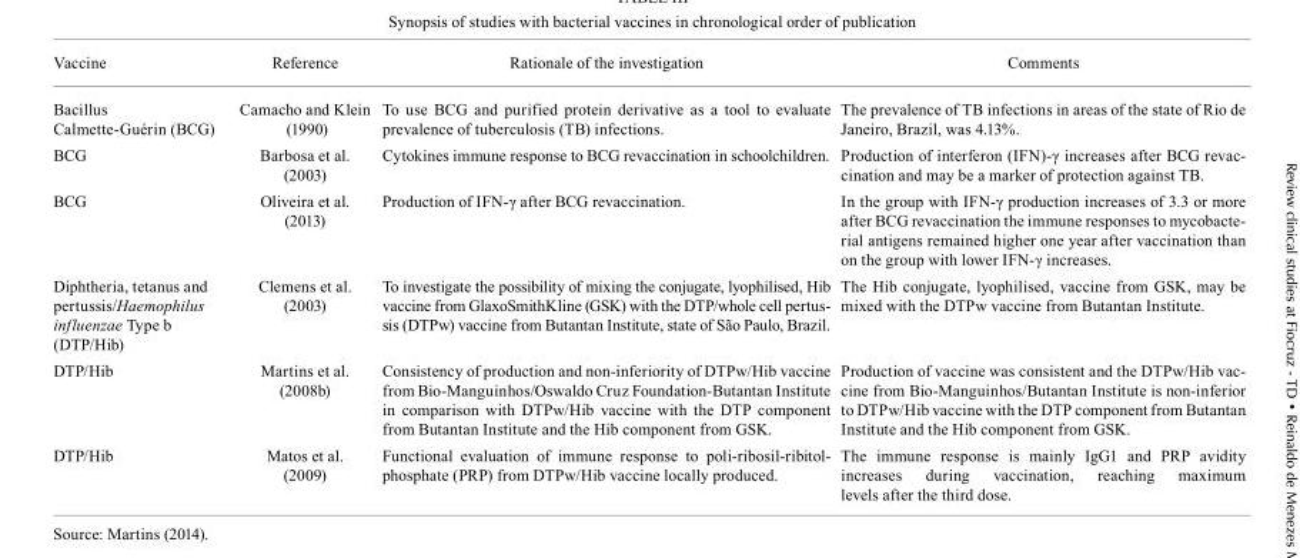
<table><thead><tr><td>Vaccine</td><td>Reference</td><td>Rationale of the investigation</td><td>Comments</td></tr></thead><tbody><tr><td>Bacillus Calmette-Guérin (BCG)</td><td>Camacho and Klein (1990)</td><td>To use BCG and purified protein derivative as a tool to evaluate prevalence of tuberculosis (TB) infections.</td><td>The prevalence of TB infections in areas of the state of Rio de Janeiro, Brazil, was 4.13%.</td></tr><tr><td>BCG</td><td>Barbosa et al. (2003)</td><td>Cytokines immune response to BCG revaccination in schoolchildren.</td><td>Production of interferon (IFN)-γ increases after BCG revac- cination and may be a marker of protection against TB.</td></tr><tr><td>BCG</td><td>Oliveira et al. (2013)</td><td>Production of IFN-γ after BCG revaccination.</td><td>In the group with IFN-γ production increases of 3.3 or more after BCG revaccination the immune responses to mycobacte- rial antigens remained higher one year after vaccination than on the group with lower IFN-γ increases.</td></tr><tr><td>Diphtheria, tetanus and pertussis/Haemophilus influenzae Type b (DTP/Hib)</td><td>Clemens et al. (2003)</td><td>To investigate the possibility of mixing the conjugate, lyophilised, Hib vaccine from GlaxoSmithKline (GSK) with the DTP/whole cell pertus- sis (DTPw) vaccine from Butantan Institute, state of São Paulo, Brazil.</td><td>The Hib conjugate, lyophilised, vaccine from GSK, may be mixed with the DTPw vaccine from Butantan Institute.</td></tr><tr><td>DTP/Hib</td><td>Martins et al. (2008b)</td><td>Consistency of production and non-inferiority of DTPw/Hib vaccine from Bio-Manguinhos/Oswaldo Cruz Foundation-Butantan Institute in comparison with DTPw/Hib vaccine with the DTP component from Butantan Institute and the Hib component from GSK.</td><td>Production of vaccine was consistent and the DTPw/Hib vac- cine from Bio-Manguinhos/Butantan Institute is non-inferior to DTPw/Hib vaccine with the DTP component from Butantan Institute and the Hib component from GSK.</td></tr><tr><td>DTP/Hib</td><td>Matos et al. (2009)</td><td>Functional evaluation of immune response to poli-ribosil-ribitol- phosphate (PRP) from DTPw/Hib vaccine locally produced.</td><td>The immune response is mainly IgG1 and PRP avidity increases during vaccination, reaching maximum levels after the third dose.</td></tr></tbody></table>